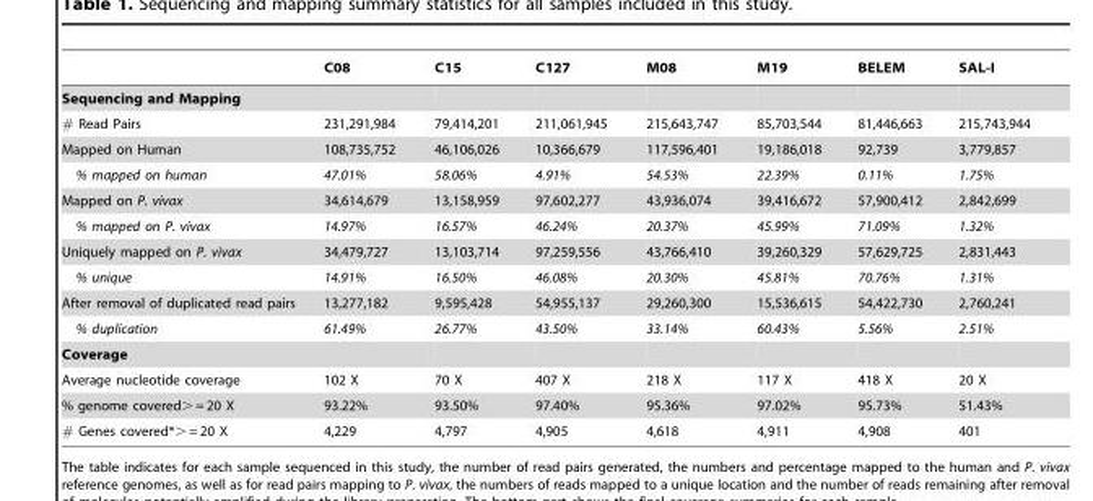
<table><thead><tr><td></td><td>C08</td><td>C15</td><td>C127</td><td>M08</td><td>M19</td><td>BELEM</td><td>SAL-I</td></tr></thead><tbody><tr><td colspan="8">Sequencing and Mapping</td></tr><tr><td># Read Pairs</td><td>231,291,984</td><td>79,414,201</td><td>211,061,945</td><td>215,643,747</td><td>85,703,544</td><td>81,446,663</td><td>215,743,944</td></tr><tr><td>Mapped on Human</td><td>108,735,752</td><td>46,106,026</td><td>10,366,679</td><td>117,596,401</td><td>19,186,018</td><td>92,739</td><td>3,779,857</td></tr><tr><td>% mapped on human</td><td>47.01%</td><td>58.06%</td><td>4.91%</td><td>54.53%</td><td>22.39%</td><td>0.11%</td><td>1.75%</td></tr><tr><td>Mapped on P. vivax</td><td>34,614,679</td><td>13,158,959</td><td>97,602,277</td><td>43,936,074</td><td>39,416,672</td><td>57,900,412</td><td>2,842,699</td></tr><tr><td>% mapped on P. vivax</td><td>14.97%</td><td>16.57%</td><td>46.24%</td><td>20.37%</td><td>45.99%</td><td>71.09%</td><td>1.32%</td></tr><tr><td>Uniquely mapped on P. vivax</td><td>34,479,727</td><td>13,103,714</td><td>97,259,556</td><td>43,766,410</td><td>39,260,329</td><td>57,629,725</td><td>2,831,443</td></tr><tr><td>% unique</td><td>14.91%</td><td>16.50%</td><td>46.08%</td><td>20.30%</td><td>45.81%</td><td>70.76%</td><td>1.31%</td></tr><tr><td>After removal of duplicated read pairs</td><td>13,277,182</td><td>9,595,428</td><td>54,955,137</td><td>29,260,300</td><td>15,536,615</td><td>54,422,730</td><td>2,760,241</td></tr><tr><td>% duplication</td><td>61.49%</td><td>26.77%</td><td>43.50%</td><td>33.14%</td><td>60.43%</td><td>5.56%</td><td>2.51%</td></tr><tr><td colspan="8">Coverage</td></tr><tr><td>Average nucleotide coverage</td><td>102 X</td><td>70 X</td><td>407 X</td><td>218 X</td><td>117 X</td><td>418 X</td><td>20 X</td></tr><tr><td>% genome covered&gt; = 20 X</td><td>93.22%</td><td>93.50%</td><td>97.40%</td><td>95.36%</td><td>97.02%</td><td>95.73%</td><td>51.43%</td></tr><tr><td># Genes covered*&gt; = 20 X</td><td>4,229</td><td>4,797</td><td>4,905</td><td>4,618</td><td>4,911</td><td>4,908</td><td>401</td></tr></tbody></table>